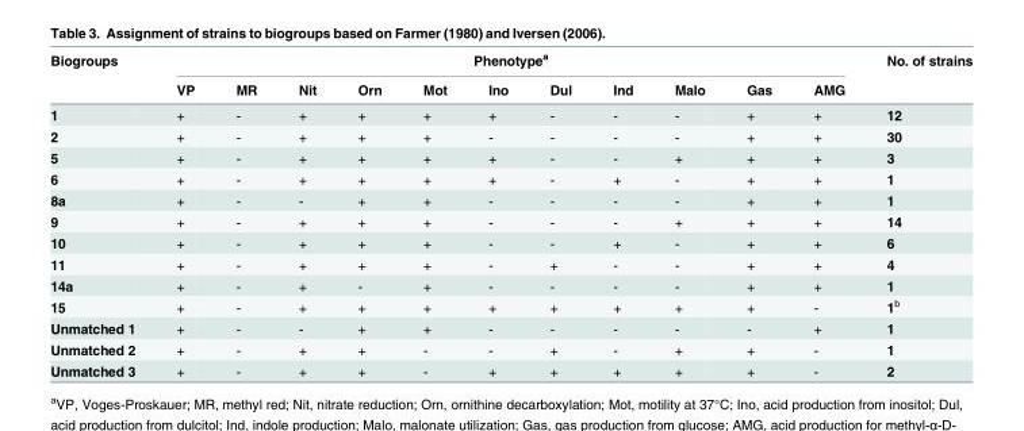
<table><thead><tr><td rowspan="2">Biogroups</td><td colspan="11">Phenotype<sup>a</sup></td><td rowspan="2">No. of strains</td></tr><tr><td>VP</td><td>MR</td><td>Nit</td><td>Orn</td><td>Mot</td><td>Ino</td><td>Dul</td><td>Ind</td><td>Malo</td><td>Gas</td><td>AMG</td></tr></thead><tbody><tr><td>1</td><td>+</td><td>-</td><td>+</td><td>+</td><td>+</td><td>+</td><td>-</td><td>-</td><td>-</td><td>+</td><td>+</td><td>12</td></tr><tr><td>2</td><td>+</td><td>-</td><td>+</td><td>+</td><td>+</td><td>-</td><td>-</td><td>-</td><td>-</td><td>+</td><td>+</td><td>30</td></tr><tr><td>5</td><td>+</td><td>-</td><td>+</td><td>+</td><td>+</td><td>+</td><td>-</td><td>-</td><td>+</td><td>+</td><td>+</td><td>3</td></tr><tr><td>6</td><td>+</td><td>-</td><td>+</td><td>+</td><td>+</td><td>+</td><td>-</td><td>+</td><td>-</td><td>+</td><td>+</td><td>1</td></tr><tr><td>8a</td><td>+</td><td>-</td><td>-</td><td>+</td><td>+</td><td>-</td><td>-</td><td>-</td><td>-</td><td>+</td><td>+</td><td>1</td></tr><tr><td>9</td><td>+</td><td>-</td><td>+</td><td>+</td><td>+</td><td>-</td><td>-</td><td>-</td><td>+</td><td>+</td><td>+</td><td>14</td></tr><tr><td>10</td><td>+</td><td>-</td><td>+</td><td>+</td><td>+</td><td>-</td><td>-</td><td>+</td><td>-</td><td>+</td><td>+</td><td>6</td></tr><tr><td>11</td><td>+</td><td>-</td><td>+</td><td>+</td><td>+</td><td>-</td><td>+</td><td>-</td><td>-</td><td>+</td><td>+</td><td>4</td></tr><tr><td>14a</td><td>+</td><td>-</td><td>+</td><td>-</td><td>+</td><td>-</td><td>-</td><td>-</td><td>-</td><td>+</td><td>+</td><td>1</td></tr><tr><td>15</td><td>+</td><td>-</td><td>+</td><td>+</td><td>+</td><td>+</td><td>+</td><td>+</td><td>+</td><td>+</td><td>-</td><td>1<sup>b</sup></td></tr><tr><td>Unmatched 1</td><td>+</td><td>-</td><td>-</td><td>+</td><td>+</td><td>-</td><td>-</td><td>-</td><td>-</td><td>-</td><td>+</td><td>1</td></tr><tr><td>Unmatched 2</td><td>+</td><td>-</td><td>+</td><td>+</td><td>-</td><td>-</td><td>+</td><td>-</td><td>+</td><td>+</td><td>-</td><td>1</td></tr><tr><td>Unmatched 3</td><td>+</td><td>-</td><td>+</td><td>+</td><td>-</td><td>+</td><td>+</td><td>+</td><td>+</td><td>+</td><td>-</td><td>2</td></tr></tbody></table>